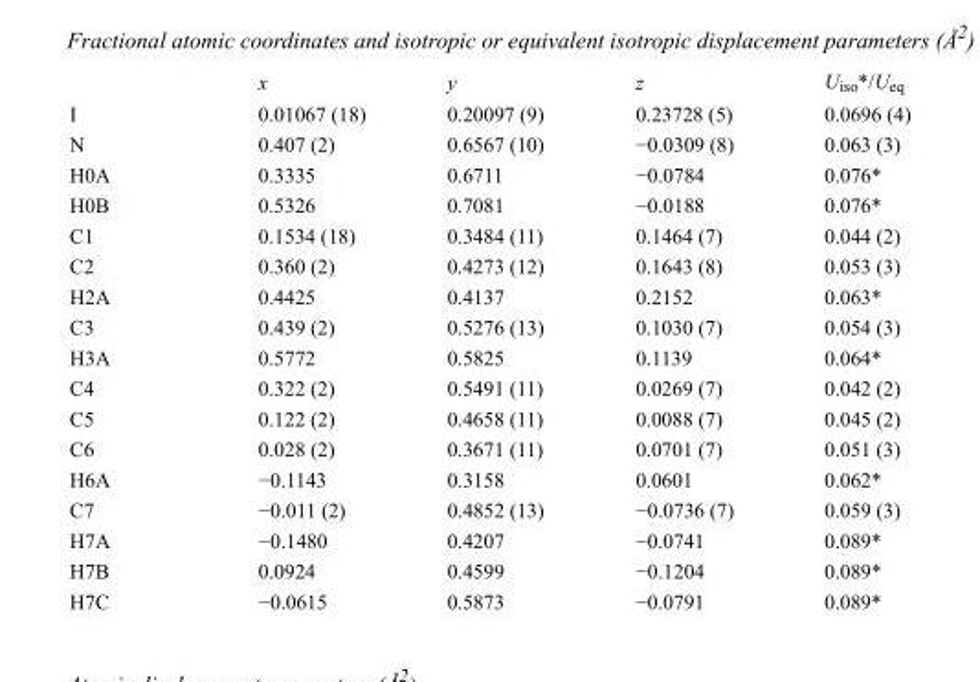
<table><thead><tr><td></td><td>x</td><td>y</td><td>z</td><td>U<sub>iso</sub>*/U<sub>eq</sub></td></tr></thead><tbody><tr><td>I</td><td>0.01067 (18)</td><td>0.20097 (9)</td><td>0.23728 (5)</td><td>0.0696 (4)</td></tr><tr><td>N</td><td>0.407 (2)</td><td>0.6567 (10)</td><td>−0.0309 (8)</td><td>0.063 (3)</td></tr><tr><td>H0A</td><td>0.3335</td><td>0.6711</td><td>−0.0784</td><td>0.076*</td></tr><tr><td>H0B</td><td>0.5326</td><td>0.7081</td><td>−0.0188</td><td>0.076*</td></tr><tr><td>C1</td><td>0.1534 (18)</td><td>0.3484 (11)</td><td>0.1464 (7)</td><td>0.044 (2)</td></tr><tr><td>C2</td><td>0.360 (2)</td><td>0.4273 (12)</td><td>0.1643 (8)</td><td>0.053 (3)</td></tr><tr><td>H2A</td><td>0.4425</td><td>0.4137</td><td>0.2152</td><td>0.063*</td></tr><tr><td>C3</td><td>0.439 (2)</td><td>0.5276 (13)</td><td>0.1030 (7)</td><td>0.054 (3)</td></tr><tr><td>H3A</td><td>0.5772</td><td>0.5825</td><td>0.1139</td><td>0.064*</td></tr><tr><td>C4</td><td>0.322 (2)</td><td>0.5491 (11)</td><td>0.0269 (7)</td><td>0.042 (2)</td></tr><tr><td>C5</td><td>0.122 (2)</td><td>0.4658 (11)</td><td>0.0088 (7)</td><td>0.045 (2)</td></tr><tr><td>C6</td><td>0.028 (2)</td><td>0.3671 (11)</td><td>0.0701 (7)</td><td>0.051 (3)</td></tr><tr><td>H6A</td><td>−0.1143</td><td>0.3158</td><td>0.0601</td><td>0.062*</td></tr><tr><td>C7</td><td>−0.011 (2)</td><td>0.4852 (13)</td><td>−0.0736 (7)</td><td>0.059 (3)</td></tr><tr><td>H7A</td><td>−0.1480</td><td>0.4207</td><td>−0.0741</td><td>0.089*</td></tr><tr><td>H7B</td><td>0.0924</td><td>0.4599</td><td>−0.1204</td><td>0.089*</td></tr><tr><td>H7C</td><td>−0.0615</td><td>0.5873</td><td>−0.0791</td><td>0.089*</td></tr></tbody></table>